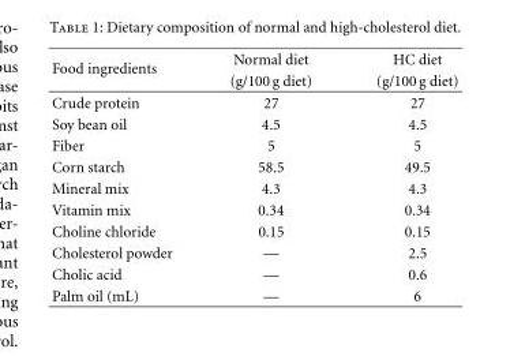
<table><thead><tr><td rowspan="2">Food ingredients</td><td rowspan="2">Normal diet (g/100 g diet)</td><td rowspan="2">HC diet (g/100 g diet)</td></tr><tr></tr></thead><tbody><tr><td>Crude protein</td><td>27</td><td>27</td></tr><tr><td>Soy bean oil</td><td>4.5</td><td>4.5</td></tr><tr><td>Fiber</td><td>5</td><td>5</td></tr><tr><td>Corn starch</td><td>58.5</td><td>49.5</td></tr><tr><td>Mineral mix</td><td>4.3</td><td>4.3</td></tr><tr><td>Vitamin mix</td><td>0.34</td><td>0.34</td></tr><tr><td>Choline chloride</td><td>0.15</td><td>0.15</td></tr><tr><td>Cholesterol powder</td><td>—</td><td>2.5</td></tr><tr><td>Cholic acid</td><td>—</td><td>0.6</td></tr><tr><td>Palm oil (mL)</td><td>—</td><td>6</td></tr></tbody></table>